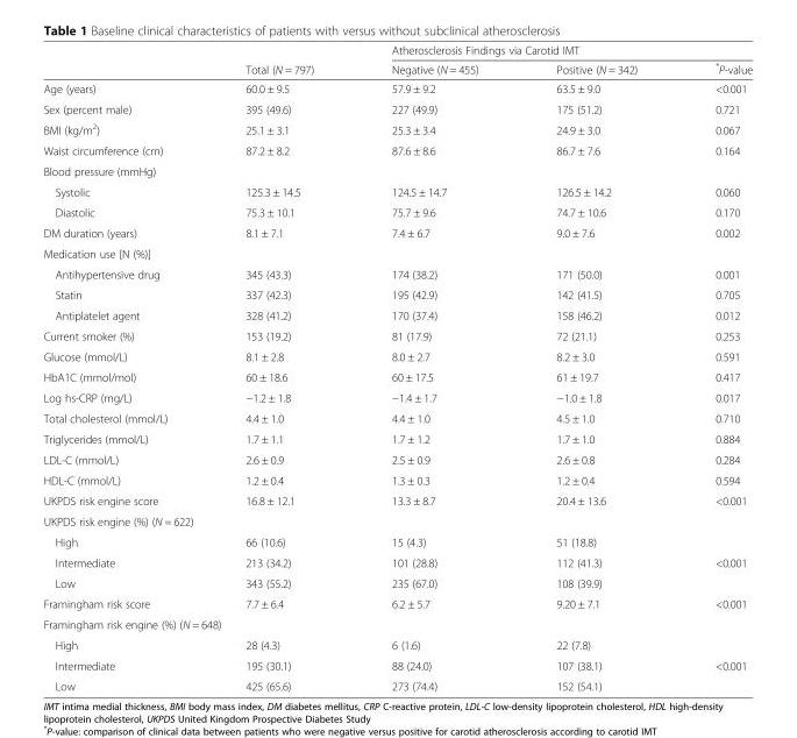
<table><thead><tr><td rowspan="2"></td><td rowspan="2">Total (N = 797)</td><td colspan="3">Atherosclerosis Findings via Carotid IMT</td></tr><tr><td>Negative (N = 455)</td><td>Positive (N = 342)</td><td>*P-value</td></tr></thead><tbody><tr><td>Age (years)</td><td>60.0 ± 9.5</td><td>57.9 ± 9.2</td><td>63.5 ± 9.0</td><td>&lt;0.001</td></tr><tr><td>Sex (percent male)</td><td>395 (49.6)</td><td>227 (49.9)</td><td>175 (51.2)</td><td>0.721</td></tr><tr><td>BMI (kg/m<sup>2</sup>)</td><td>25.1 ± 3.1</td><td>25.3 ± 3.4</td><td>24.9 ± 3.0</td><td>0.067</td></tr><tr><td>Waist circumference (cm)</td><td>87.2 ± 8.2</td><td>87.6 ± 8.6</td><td>86.7 ± 7.6</td><td>0.164</td></tr><tr><td colspan="5">Blood pressure (mmHg)</td></tr><tr><td>Systolic</td><td>125.3 ± 14.5</td><td>124.5 ± 14.7</td><td>126.5 ± 14.2</td><td>0.060</td></tr><tr><td>Diastolic</td><td>75.3 ± 10.1</td><td>75.7 ± 9.6</td><td>74.7 ± 10.6</td><td>0.170</td></tr><tr><td>DM duration (years)</td><td>8.1 ± 7.1</td><td>7.4 ± 6.7</td><td>9.0 ± 7.6</td><td>0.002</td></tr><tr><td colspan="5">Medication use [N (%)]</td></tr><tr><td>Antihypertensive drug</td><td>345 (43.3)</td><td>174 (38.2)</td><td>171 (50.0)</td><td>0.001</td></tr><tr><td>Statin</td><td>337 (42.3)</td><td>195 (42.9)</td><td>142 (41.5)</td><td>0.705</td></tr><tr><td>Antiplatelet agent</td><td>328 (41.2)</td><td>170 (37.4)</td><td>158 (46.2)</td><td>0.012</td></tr><tr><td>Current smoker (%)</td><td>153 (19.2)</td><td>81 (17.9)</td><td>72 (21.1)</td><td>0.253</td></tr><tr><td>Glucose (mmol/L)</td><td>8.1 ± 2.8</td><td>8.0 ± 2.7</td><td>8.2 ± 3.0</td><td>0.591</td></tr><tr><td>HbA1C (mmol/mol)</td><td>60 ± 18.6</td><td>60 ± 17.5</td><td>61 ± 19.7</td><td>0.417</td></tr><tr><td>Log hs-CRP (mg/L)</td><td>−1.2 ± 1.8</td><td>−1.4 ± 1.7</td><td>−1.0 ± 1.8</td><td>0.017</td></tr><tr><td>Total cholesterol (mmol/L)</td><td>4.4 ± 1.0</td><td>4.4 ± 1.0</td><td>4.5 ± 1.0</td><td>0.710</td></tr><tr><td>Triglycerides (mmol/L)</td><td>1.7 ± 1.1</td><td>1.7 ± 1.2</td><td>1.7 ± 1.0</td><td>0.884</td></tr><tr><td>LDL-C (mmol/L)</td><td>2.6 ± 0.9</td><td>2.5 ± 0.9</td><td>2.6 ± 0.8</td><td>0.284</td></tr><tr><td>HDL-C (mmol/L)</td><td>1.2 ± 0.4</td><td>1.3 ± 0.3</td><td>1.2 ± 0.4</td><td>0.594</td></tr><tr><td>UKPDS risk engine score</td><td>16.8 ± 12.1</td><td>13.3 ± 8.7</td><td>20.4 ± 13.6</td><td>&lt;0.001</td></tr><tr><td colspan="5">UKPDS risk engine (%) (N = 622)</td></tr><tr><td>High</td><td>66 (10.6)</td><td>15 (4.3)</td><td>51 (18.8)</td><td></td></tr><tr><td>Intermediate</td><td>213 (34.2)</td><td>101 (28.8)</td><td>112 (41.3)</td><td>&lt;0.001</td></tr><tr><td>Low</td><td>343 (55.2)</td><td>235 (67.0)</td><td>108 (39.9)</td><td></td></tr><tr><td>Framingham risk score</td><td>7.7 ± 6.4</td><td>6.2 ± 5.7</td><td>9.20 ± 7.1</td><td>&lt;0.001</td></tr><tr><td colspan="5">Framingham risk engine (%) (N = 648)</td></tr><tr><td>High</td><td>28 (4.3)</td><td>6 (1.6)</td><td>22 (7.8)</td><td></td></tr><tr><td>Intermediate</td><td>195 (30.1)</td><td>88 (24.0)</td><td>107 (38.1)</td><td>&lt;0.001</td></tr><tr><td>Low</td><td>425 (65.6)</td><td>273 (74.4)</td><td>152 (54.1)</td><td></td></tr></tbody></table>